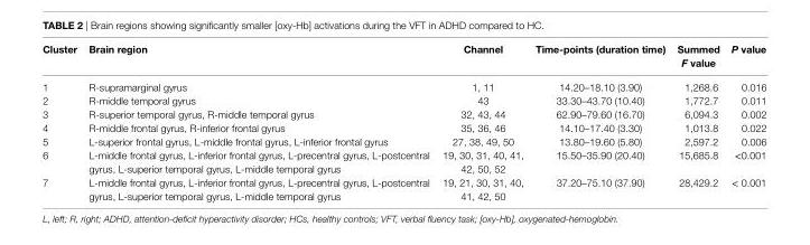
<table><thead><tr><td>cluster</td><td>brain region</td><td>channel</td><td>Time-points (duration time)</td><td>summed F value</td><td>P value</td></tr></thead><tbody><tr><td>1</td><td>R-supramarginal gyrus</td><td>1, 11</td><td>14.20–18.10 (3.90)</td><td>1,268.6</td><td>0.016</td></tr><tr><td>2</td><td>R-middle temporal gyrus</td><td>43</td><td>33.30–43.70 (10.40)</td><td>1,772.7</td><td>0.011</td></tr><tr><td>3</td><td>R-superior temporal gyrus, R-middle temporal gyrus</td><td>32, 43, 44</td><td>62.90–79.60 (16.70)</td><td>6,094.3</td><td>0.002</td></tr><tr><td>4</td><td>R-middle frontal gyrus, R-inferior frontal gyrus</td><td>35, 36, 46</td><td>14.10–17.40 (3.30)</td><td>1,013.8</td><td>0.022</td></tr><tr><td>5</td><td>L-superior frontal gyrus, L-middle frontal gyrus, L-inferior frontal gyrus</td><td>27, 38, 49, 50</td><td>13.80–19.60 (5.80)</td><td>2,597.2</td><td>0.006</td></tr><tr><td>6</td><td>L-middle frontal gyrus, L-inferior frontal gyrus, L-precentral gyrus, L-postcentral gyrus, L-superior temporal gyrus, L-middle temporal gyrus</td><td>19, 30, 31, 40, 41, 42, 50, 52</td><td>15.50–35.90 (20.40)</td><td>15,685.8</td><td>&lt;0.001</td></tr><tr><td>7</td><td>L-middle frontal gyrus, L-inferior frontal gyrus, L-precentral gyrus, L-postcentral gyrus, L-superior temporal gyrus, L-middle temporal gyrus</td><td>19, 21, 30, 31, 40, 41, 42, 50</td><td>37.20–75.10 (37.90)</td><td>28,429.2</td><td>&lt; 0.001</td></tr></tbody></table>